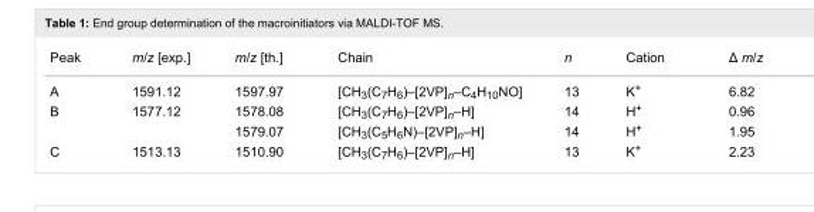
<table><tbody><tr><td>Peak</td><td>m/z [exp.]</td><td>m/z [th.]</td><td>Chain</td><td>n</td><td>Cation</td><td>Δ m/z</td></tr><tr><td>A</td><td>1591.12</td><td>1597.97</td><td>[CH<sub>3</sub>(C<sub>7</sub>H<sub>6</sub>)–[2VP]<sub>n</sub>–C<sub>4</sub>H<sub>10</sub>NO]</td><td>13</td><td>K<sup>+</sup></td><td>6.82</td></tr><tr><td rowspan="2">B</td><td>1577.12</td><td>1578.08</td><td>[CH<sub>3</sub>(C<sub>7</sub>H<sub>6</sub>)–[2VP]<sub>n</sub>–H]</td><td>14</td><td>H<sup>+</sup></td><td>0.96</td></tr><tr><td></td><td>1579.07</td><td>[CH<sub>3</sub>(C<sub>5</sub>H<sub>6</sub>N)–[2VP]<sub>n</sub>–H]</td><td>14</td><td>H<sup>+</sup></td><td>1.95</td></tr><tr><td>C</td><td>1513.13</td><td>1510.90</td><td>[CH<sub>3</sub>(C<sub>7</sub>H<sub>6</sub>)–[2VP]<sub>n</sub>–H]</td><td>13</td><td>K<sup>+</sup></td><td>2.23</td></tr></tbody></table>